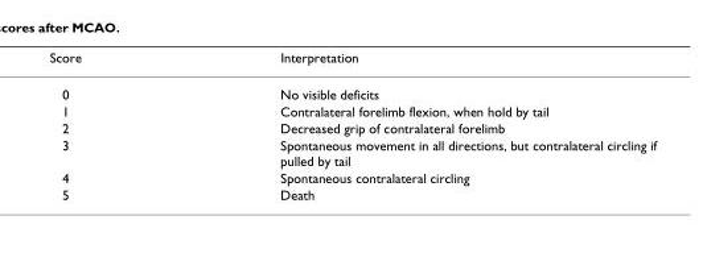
<table><thead><tr><td>Score</td><td>Interpretation</td></tr></thead><tbody><tr><td>0</td><td>No visible deficits</td></tr><tr><td>1</td><td>Contralateral forelimb flexion, when hold by tail</td></tr><tr><td>2</td><td>Decreased grip of contralateral forelimb</td></tr><tr><td>3</td><td>Spontaneous movement in all directions, but contralateral circling if pulled by tail</td></tr><tr><td>4</td><td>Spontaneous contralateral circling</td></tr><tr><td>5</td><td>Death</td></tr></tbody></table>